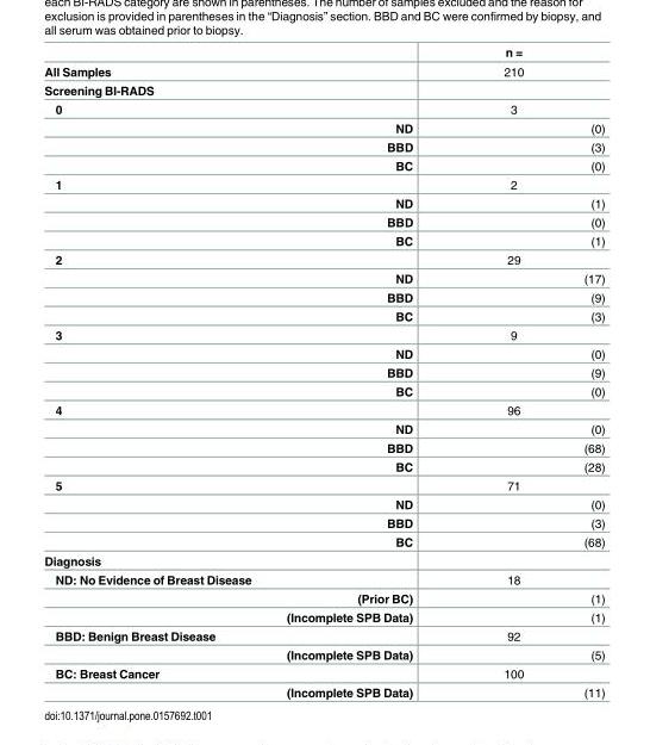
<table><thead><tr><td rowspan="2">All Samples</td><td rowspan="2">n = 210</td></tr><tr></tr></thead><tbody><tr><td colspan="2">Screening BI-RADS</td></tr><tr><td>0</td><td>3</td></tr><tr><td>ND</td><td>(0)</td></tr><tr><td>BBD</td><td>(3)</td></tr><tr><td>BC</td><td>(0)</td></tr><tr><td>1</td><td>2</td></tr><tr><td>ND</td><td>(1)</td></tr><tr><td>BBD</td><td>(0)</td></tr><tr><td>BC</td><td>(1)</td></tr><tr><td>2</td><td>29</td></tr><tr><td>ND</td><td>(17)</td></tr><tr><td>BBD</td><td>(9)</td></tr><tr><td>BC</td><td>(3)</td></tr><tr><td>3</td><td>9</td></tr><tr><td>ND</td><td>(0)</td></tr><tr><td>BBD</td><td>(9)</td></tr><tr><td>BC</td><td>(0)</td></tr><tr><td>4</td><td>96</td></tr><tr><td>ND</td><td>(0)</td></tr><tr><td>BBD</td><td>(68)</td></tr><tr><td>BC</td><td>(28)</td></tr><tr><td>5</td><td>71</td></tr><tr><td>ND</td><td>(0)</td></tr><tr><td>BBD</td><td>(3)</td></tr><tr><td>BC</td><td>(68)</td></tr><tr><td colspan="2">Diagnosis</td></tr><tr><td>ND: No Evidence of Breast Disease</td><td>18</td></tr><tr><td>(Prior BC)</td><td>(1)</td></tr><tr><td>(Incomplete SPB Data)</td><td>(1)</td></tr><tr><td>BBD: Benign Breast Disease</td><td>92</td></tr><tr><td>(Incomplete SPB Data)</td><td>(5)</td></tr><tr><td>BC: Breast Cancer</td><td>100</td></tr><tr><td>(Incomplete SPB Data)</td><td>(11)</td></tr></tbody></table>